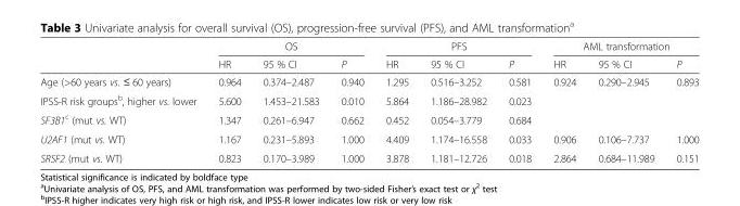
<table><thead><tr><td rowspan="2"></td><td colspan="3">OS</td><td colspan="3">PFS</td><td colspan="3">AML transformation</td></tr><tr><td>HR</td><td>95 % CI</td><td>P</td><td>HR</td><td>95 % CI</td><td>P</td><td>HR</td><td>95 % CI</td><td>P</td></tr></thead><tbody><tr><td>Age (&gt;60 years vs. ≤ 60 years)</td><td>0.964</td><td>0.374–2.487</td><td>0.940</td><td>1.295</td><td>0.516–3.252</td><td>0.581</td><td>0.924</td><td>0.290–2.945</td><td>0.893</td></tr><tr><td>IPSS-R risk groups<sup>b</sup>, higher vs. lower</td><td>5.600</td><td>1.453–21.583</td><td>0.010</td><td>5.864</td><td>1.186–28.982</td><td>0.023</td><td></td><td></td><td></td></tr><tr><td>SF3B1<sup>c</sup> (mut vs. WT)</td><td>1.347</td><td>0.261–6.947</td><td>0.662</td><td>0.452</td><td>0.054–3.779</td><td>0.684</td><td></td><td></td><td></td></tr><tr><td>U2AF1 (mut vs. WT)</td><td>1.167</td><td>0.231–5.893</td><td>1.000</td><td>4.409</td><td>1.174–16.558</td><td>0.033</td><td>0.906</td><td>0.106–7.737</td><td>1.000</td></tr><tr><td>SRSF2 (mut vs. WT)</td><td>0.823</td><td>0.170–3.989</td><td>1.000</td><td>3.878</td><td>1.181–12.726</td><td>0.018</td><td>2.864</td><td>0.684–11.989</td><td>0.151</td></tr></tbody></table>